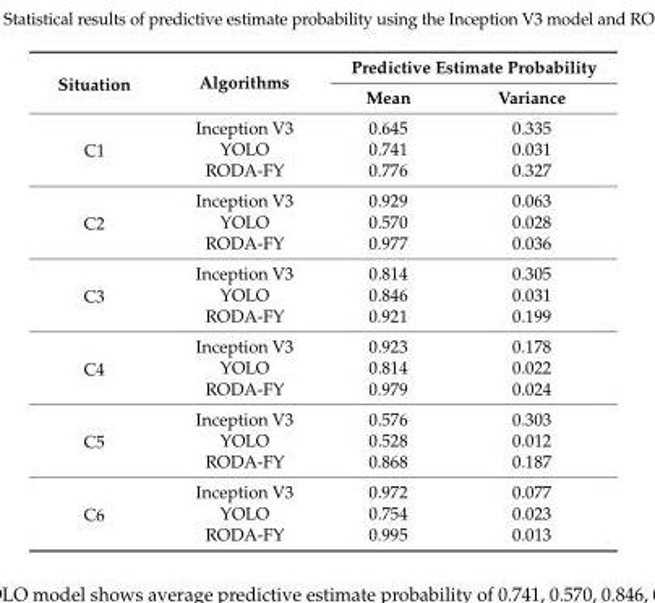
<table><thead><tr><td rowspan="2">Situation</td><td rowspan="2">Algorithms</td><td colspan="2">Predictive Estimate Probability</td></tr><tr><td>Mean</td><td>Variance</td></tr></thead><tbody><tr><td rowspan="3">C1</td><td>Inception V3</td><td>0.645</td><td>0.335</td></tr><tr><td>YOLO</td><td>0.741</td><td>0.031</td></tr><tr><td>RODA-FY</td><td>0.776</td><td>0.327</td></tr><tr><td rowspan="3">C2</td><td>Inception V3</td><td>0.929</td><td>0.063</td></tr><tr><td>YOLO</td><td>0.570</td><td>0.028</td></tr><tr><td>RODA-FY</td><td>0.977</td><td>0.036</td></tr><tr><td rowspan="3">C3</td><td>Inception V3</td><td>0.814</td><td>0.305</td></tr><tr><td>YOLO</td><td>0.846</td><td>0.031</td></tr><tr><td>RODA-FY</td><td>0.921</td><td>0.199</td></tr><tr><td rowspan="3">C4</td><td>Inception V3</td><td>0.923</td><td>0.178</td></tr><tr><td>YOLO</td><td>0.814</td><td>0.022</td></tr><tr><td>RODA-FY</td><td>0.979</td><td>0.024</td></tr><tr><td rowspan="3">C5</td><td>Inception V3</td><td>0.576</td><td>0.303</td></tr><tr><td>YOLO</td><td>0.528</td><td>0.012</td></tr><tr><td>RODA-FY</td><td>0.868</td><td>0.187</td></tr><tr><td rowspan="3">C6</td><td>Inception V3</td><td>0.972</td><td>0.077</td></tr><tr><td>YOLO</td><td>0.754</td><td>0.023</td></tr><tr><td>RODA-FY</td><td>0.995</td><td>0.013</td></tr></tbody></table>